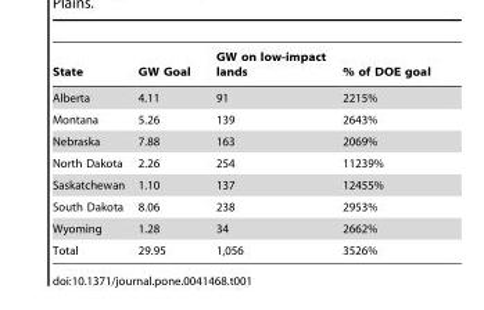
<table><thead><tr><td>State</td><td>GW Goal</td><td>GW on low-impact lands</td><td>% of DOE goal</td></tr></thead><tbody><tr><td>Alberta</td><td>4.11</td><td>91</td><td>2215%</td></tr><tr><td>Montana</td><td>5.26</td><td>139</td><td>2643%</td></tr><tr><td>Nebraska</td><td>7.88</td><td>163</td><td>2069%</td></tr><tr><td>North Dakota</td><td>2.26</td><td>254</td><td>11239%</td></tr><tr><td>Saskatchewan</td><td>1.10</td><td>137</td><td>12455%</td></tr><tr><td>South Dakota</td><td>8.06</td><td>238</td><td>2953%</td></tr><tr><td>Wyoming</td><td>1.28</td><td>34</td><td>2662%</td></tr><tr><td>Total</td><td>29.95</td><td>1,056</td><td>3526%</td></tr></tbody></table>